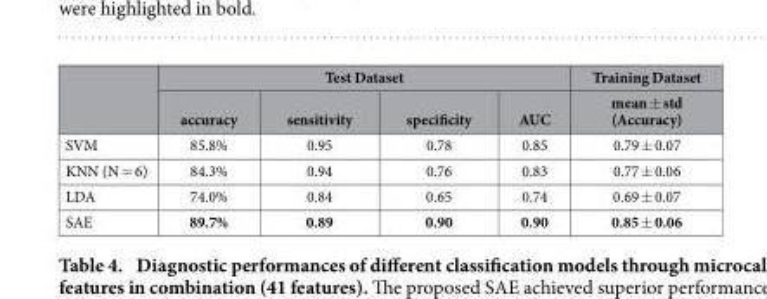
<table><thead><tr><td rowspan="2"></td><td colspan="4">Test Dataset</td><td rowspan="2">Training Dataset mean ± std (Accuracy)</td></tr><tr><td>accuracy</td><td>sensitivity</td><td>specificity</td><td>AUC</td></tr></thead><tbody><tr><td>SVM</td><td>85.8%</td><td>0.95</td><td>0.78</td><td>0.85</td><td>0.79 ± 0.07</td></tr><tr><td>KNN (N = 6)</td><td>84.3%</td><td>0.94</td><td>0.76</td><td>0.83</td><td>0.77 ± 0.06</td></tr><tr><td>LDA</td><td>74.0%</td><td>0.84</td><td>0.65</td><td>0.74</td><td>0.69 ± 0.07</td></tr><tr><td>SAE</td><td>89.7%</td><td>0.89</td><td>0.90</td><td>0.90</td><td>0.85 ± 0.06</td></tr></tbody></table>